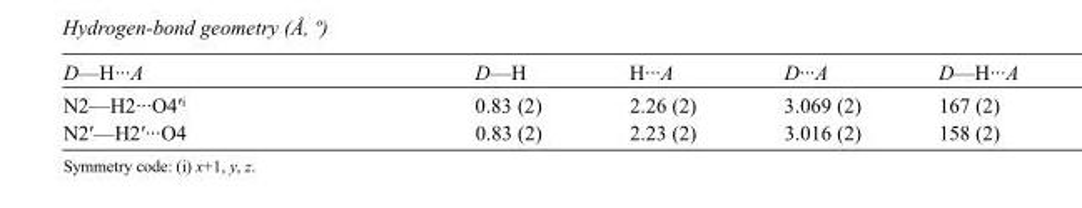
<table><tbody><tr><td>D—H···A</td><td>D—H</td><td>H···A</td><td>D···A</td><td>D—H···A</td></tr><tr><td>N2—H2···O4′<sup>i</sup></td><td>0.83 (2)</td><td>2.26 (2)</td><td>3.069 (2)</td><td>167 (2)</td></tr><tr><td>N2′—H2′···O4</td><td>0.83 (2)</td><td>2.23 (2)</td><td>3.016 (2)</td><td>158 (2)</td></tr></tbody></table>